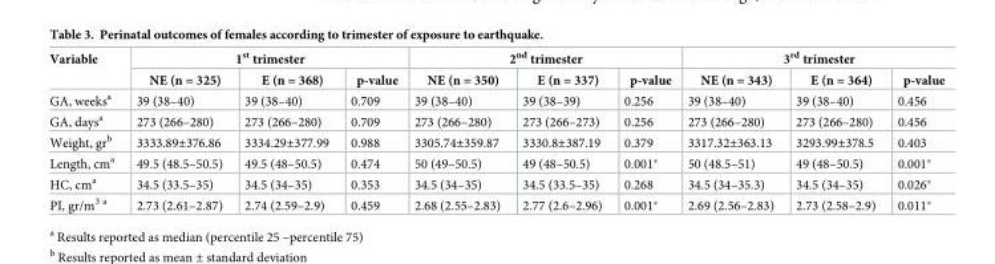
<table><thead><tr><td rowspan="2">Variable</td><td colspan="3">1<sup>st</sup> trimester</td><td colspan="3">2<sup>nd</sup> trimester</td><td colspan="3">3<sup>rd</sup> trimester</td></tr><tr><td>NE (n = 325)</td><td>E (n = 368)</td><td>p-value</td><td>NE (n = 350)</td><td>E (n = 337)</td><td>p-value</td><td>NE (n = 343)</td><td>E (n = 364)</td><td>p-value</td></tr></thead><tbody><tr><td>GA, weeks<sup>a</sup></td><td>39 (38–40)</td><td>39 (38–40)</td><td>0.709</td><td>39 (38–40)</td><td>39 (38–39)</td><td>0.256</td><td>39 (38–40)</td><td>39 (38–40)</td><td>0.456</td></tr><tr><td>GA, days<sup>a</sup></td><td>273 (266–280)</td><td>273 (266–280)</td><td>0.709</td><td>273 (266–280)</td><td>273 (266–273)</td><td>0.256</td><td>273 (266–280)</td><td>273 (266–280)</td><td>0.456</td></tr><tr><td>Weight, gr<sup>b</sup></td><td>3333.89±376.86</td><td>3334.29±377.99</td><td>0.988</td><td>3305.74±359.87</td><td>3330.8±387.19</td><td>0.379</td><td>3317.32±363.13</td><td>3293.99±378.5</td><td>0.403</td></tr><tr><td>Length, cm<sup>a</sup></td><td>49.5 (48.5–50.5)</td><td>49.5 (48–50.5)</td><td>0.474</td><td>50 (49–50.5)</td><td>49 (48–50.5)</td><td>0.001*</td><td>50 (48.5–51)</td><td>49 (48–50.5)</td><td>0.001*</td></tr><tr><td>HC, cm<sup>a</sup></td><td>34.5 (33.5–35)</td><td>34.5 (34–35)</td><td>0.353</td><td>34.5 (34–35)</td><td>34.5 (33.5–35)</td><td>0.268</td><td>34.5 (34–35.3)</td><td>34.5 (34–35)</td><td>0.026*</td></tr><tr><td>PI, gr/m<sup>3 a</sup></td><td>2.73 (2.61–2.87)</td><td>2.74 (2.59–2.9)</td><td>0.459</td><td>2.68 (2.55–2.83)</td><td>2.77 (2.6–2.96)</td><td>0.001*</td><td>2.69 (2.56–2.83)</td><td>2.73 (2.58–2.9)</td><td>0.011*</td></tr></tbody></table>